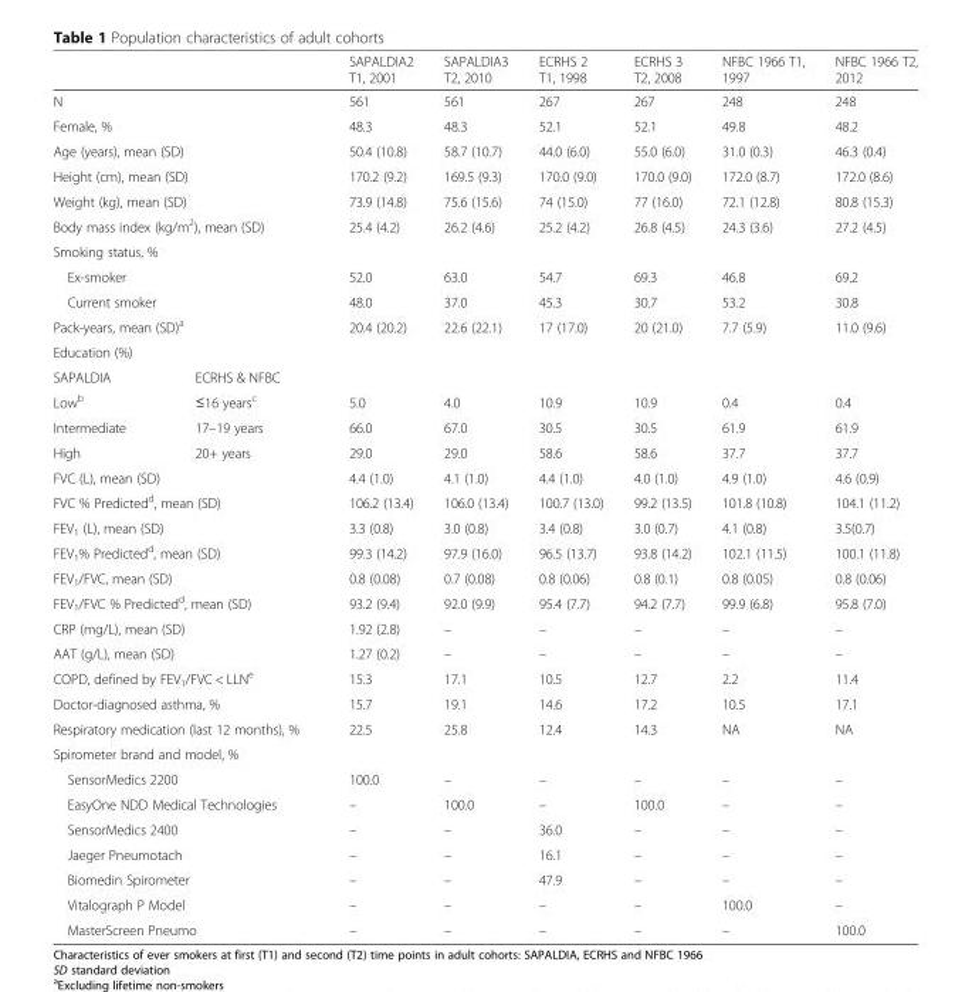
<table><thead><tr><td></td><td></td><td>SAPALDIA2 T1, 2001</td><td>SAPALDIA3 T2, 2010</td><td>ECRHS 2 T1, 1998</td><td>ECRHS 3 T2, 2008</td><td>NFBC 1966 T1, 1997</td><td>NFBC 1966 T2, 2012</td></tr></thead><tbody><tr><td colspan="2">N</td><td>561</td><td>561</td><td>267</td><td>267</td><td>248</td><td>248</td></tr><tr><td colspan="2">Female, %</td><td>48.3</td><td>48.3</td><td>52.1</td><td>52.1</td><td>49.8</td><td>48.2</td></tr><tr><td colspan="2">Age (years), mean (SD)</td><td>50.4 (10.8)</td><td>58.7 (10.7)</td><td>44.0 (6.0)</td><td>55.0 (6.0)</td><td>31.0 (0.3)</td><td>46.3 (0.4)</td></tr><tr><td colspan="2">Height (cm), mean (SD)</td><td>170.2 (9.2)</td><td>169.5 (9.3)</td><td>170.0 (9.0)</td><td>170.0 (9.0)</td><td>172.0 (8.7)</td><td>172.0 (8.6)</td></tr><tr><td colspan="2">Weight (kg), mean (SD)</td><td>73.9 (14.8)</td><td>75.6 (15.6)</td><td>74 (15.0)</td><td>77 (16.0)</td><td>72.1 (12.8)</td><td>80.8 (15.3)</td></tr><tr><td colspan="2">Body mass index (kg/m<sup>2</sup>), mean (SD)</td><td>25.4 (4.2)</td><td>26.2 (4.6)</td><td>25.2 (4.2)</td><td>26.8 (4.5)</td><td>24.3 (3.6)</td><td>27.2 (4.5)</td></tr><tr><td colspan="8">Smoking status, %</td></tr><tr><td colspan="2">Ex-smoker</td><td>52.0</td><td>63.0</td><td>54.7</td><td>69.3</td><td>46.8</td><td>69.2</td></tr><tr><td colspan="2">Current smoker</td><td>48.0</td><td>37.0</td><td>45.3</td><td>30.7</td><td>53.2</td><td>30.8</td></tr><tr><td colspan="2">Pack-years, mean (SD)<sup>a</sup></td><td>20.4 (20.2)</td><td>22.6 (22.1)</td><td>17 (17.0)</td><td>20 (21.0)</td><td>7.7 (5.9)</td><td>11.0 (9.6)</td></tr><tr><td colspan="8">Education (%)</td></tr><tr><td>SAPALDIA</td><td>ECRHS &amp; NFBC</td><td></td><td></td><td></td><td></td><td></td><td></td></tr><tr><td>Low<sup>b</sup></td><td>≤16 years<sup>c</sup></td><td>5.0</td><td>4.0</td><td>10.9</td><td>10.9</td><td>0.4</td><td>0.4</td></tr><tr><td>Intermediate</td><td>17–19 years</td><td>66.0</td><td>67.0</td><td>30.5</td><td>30.5</td><td>61.9</td><td>61.9</td></tr><tr><td>High</td><td>20+ years</td><td>29.0</td><td>29.0</td><td>58.6</td><td>58.6</td><td>37.7</td><td>37.7</td></tr><tr><td colspan="2">FVC (L), mean (SD)</td><td>4.4 (1.0)</td><td>4.1 (1.0)</td><td>4.4 (1.0)</td><td>4.0 (1.0)</td><td>4.9 (1.0)</td><td>4.6 (0.9)</td></tr><tr><td colspan="2">FVC % Predicted<sup>d</sup>, mean (SD)</td><td>106.2 (13.4)</td><td>106.0 (13.4)</td><td>100.7 (13.0)</td><td>99.2 (13.5)</td><td>101.8 (10.8)</td><td>104.1 (11.2)</td></tr><tr><td colspan="2">FEV<sub>1</sub> (L), mean (SD)</td><td>3.3 (0.8)</td><td>3.0 (0.8)</td><td>3.4 (0.8)</td><td>3.0 (0.7)</td><td>4.1 (0.8)</td><td>3.5(0.7)</td></tr><tr><td colspan="2">FEV<sub>1</sub>% Predicted<sup>d</sup>, mean (SD)</td><td>99.3 (14.2)</td><td>97.9 (16.0)</td><td>96.5 (13.7)</td><td>93.8 (14.2)</td><td>102.1 (11.5)</td><td>100.1 (11.8)</td></tr><tr><td colspan="2">FEV<sub>1</sub>/FVC, mean (SD)</td><td>0.8 (0.08)</td><td>0.7 (0.08)</td><td>0.8 (0.06)</td><td>0.8 (0.1)</td><td>0.8 (0.05)</td><td>0.8 (0.06)</td></tr><tr><td colspan="2">FEV<sub>1</sub>/FVC % Predicted<sup>d</sup>, mean (SD)</td><td>93.2 (9.4)</td><td>92.0 (9.9)</td><td>95.4 (7.7)</td><td>94.2 (7.7)</td><td>99.9 (6.8)</td><td>95.8 (7.0)</td></tr><tr><td colspan="2">CRP (mg/L), mean (SD)</td><td>1.92 (2.8)</td><td>–</td><td>–</td><td>–</td><td>–</td><td>–</td></tr><tr><td colspan="2">AAT (g/L), mean (SD)</td><td>1.27 (0.2)</td><td>–</td><td>–</td><td>–</td><td>–</td><td>–</td></tr><tr><td colspan="2">COPD, defined by FEV<sub>1</sub>/FVC &lt; LLN<sup>e</sup></td><td>15.3</td><td>17.1</td><td>10.5</td><td>12.7</td><td>2.2</td><td>11.4</td></tr><tr><td colspan="2">Doctor-diagnosed asthma, %</td><td>15.7</td><td>19.1</td><td>14.6</td><td>17.2</td><td>10.5</td><td>17.1</td></tr><tr><td colspan="2">Respiratory medication (last 12 months), %</td><td>22.5</td><td>25.8</td><td>12.4</td><td>14.3</td><td>NA</td><td>NA</td></tr><tr><td colspan="8">Spirometer brand and model, %</td></tr><tr><td colspan="2">SensorMedics 2200</td><td>100.0</td><td>–</td><td>–</td><td>–</td><td>–</td><td>–</td></tr><tr><td colspan="2">EasyOne NDD Medical Technologies</td><td>–</td><td>100.0</td><td>–</td><td>100.0</td><td>–</td><td>–</td></tr><tr><td colspan="2">SensorMedics 2400</td><td>–</td><td>–</td><td>36.0</td><td>–</td><td>–</td><td>–</td></tr><tr><td colspan="2">Jaeger Pneumotach</td><td>–</td><td>–</td><td>16.1</td><td>–</td><td>–</td><td>–</td></tr><tr><td colspan="2">Biomedin Spirometer</td><td>–</td><td>–</td><td>47.9</td><td>–</td><td>–</td><td>–</td></tr><tr><td colspan="2">Vitalograph P Model</td><td>–</td><td>–</td><td>–</td><td>–</td><td>100.0</td><td>–</td></tr><tr><td colspan="2">MasterScreen Pneumo</td><td>–</td><td>–</td><td>–</td><td>–</td><td>–</td><td>100.0</td></tr></tbody></table>